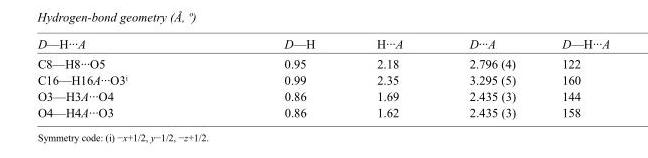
<table><tbody><tr><td>D—H···A</td><td>D—H</td><td>H···A</td><td>D···A</td><td>D—H···A</td></tr><tr><td>C8—H8···O5</td><td>0.95</td><td>2.18</td><td>2.796 (4)</td><td>122</td></tr><tr><td>C16—H16A···O3<sup>i</sup></td><td>0.99</td><td>2.35</td><td>3.295 (5)</td><td>160</td></tr><tr><td>O3—H3A···O4</td><td>0.86</td><td>1.69</td><td>2.435 (3)</td><td>144</td></tr><tr><td>O4—H4A···O3</td><td>0.86</td><td>1.62</td><td>2.435 (3)</td><td>158</td></tr></tbody></table>